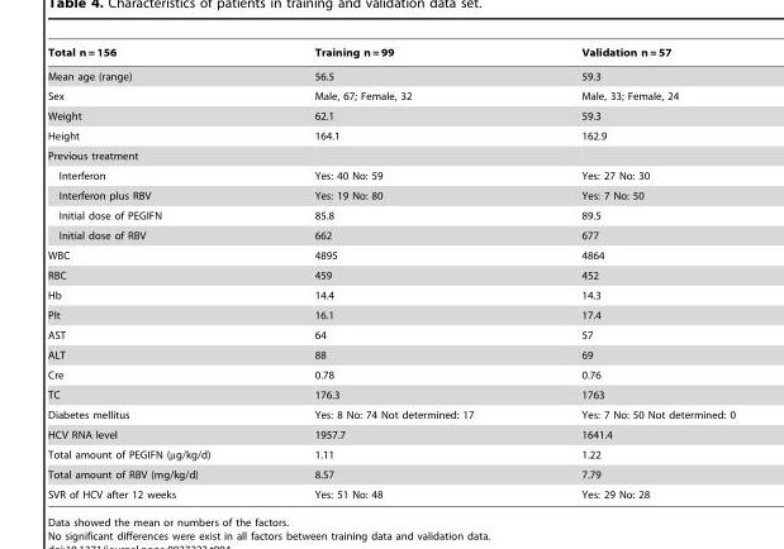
<table><thead><tr><td>Total n = 156</td><td>Training n = 99</td><td>Validation n = 57</td></tr></thead><tbody><tr><td>Mean age (range)</td><td>56.5</td><td>59.3</td></tr><tr><td>Sex</td><td>Male, 67; Female, 32</td><td>Male, 33; Female, 24</td></tr><tr><td>Weight</td><td>62.1</td><td>59.3</td></tr><tr><td>Height</td><td>164.1</td><td>162.9</td></tr><tr><td colspan="3">Previous treatment</td></tr><tr><td>Interferon</td><td>Yes: 40 No: 59</td><td>Yes: 27 No: 30</td></tr><tr><td>Interferon plus RBV</td><td>Yes: 19 No: 80</td><td>Yes: 7 No: 50</td></tr><tr><td>Initial dose of PEGIFN</td><td>85.8</td><td>89.5</td></tr><tr><td>Initial dose of RBV</td><td>662</td><td>677</td></tr><tr><td>WBC</td><td>4895</td><td>4864</td></tr><tr><td>RBC</td><td>459</td><td>452</td></tr><tr><td>Hb</td><td>14.4</td><td>14.3</td></tr><tr><td>Plt</td><td>16.1</td><td>17.4</td></tr><tr><td>AST</td><td>64</td><td>57</td></tr><tr><td>ALT</td><td>88</td><td>69</td></tr><tr><td>Cre</td><td>0.78</td><td>0.76</td></tr><tr><td>TC</td><td>176.3</td><td>1763</td></tr><tr><td>Diabetes mellitus</td><td>Yes: 8 No: 74 Not determined: 17</td><td>Yes: 7 No: 50 Not determined: 0</td></tr><tr><td>HCV RNA level</td><td>1957.7</td><td>1641.4</td></tr><tr><td>Total amount of PEGIFN (µg/kg/d)</td><td>1.11</td><td>1.22</td></tr><tr><td>Total amount of RBV (mg/kg/d)</td><td>8.57</td><td>7.79</td></tr><tr><td>SVR of HCV after 12 weeks</td><td>Yes: 51 No: 48</td><td>Yes: 29 No: 28</td></tr></tbody></table>